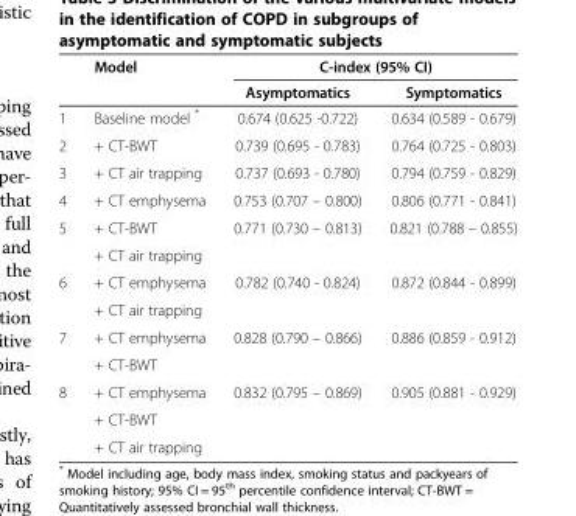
<table><thead><tr><td rowspan="2"></td><td rowspan="2">Model</td><td colspan="2">C-index (95% CI)</td></tr><tr><td>Asymptomatics</td><td>Symptomatics</td></tr></thead><tbody><tr><td>1</td><td>Baseline model *</td><td>0.674 (0.625 -0.722)</td><td>0.634 (0.589 - 0.679)</td></tr><tr><td>2</td><td>+ CT-BWT</td><td>0.739 (0.695 - 0.783)</td><td>0.764 (0.725 - 0.803)</td></tr><tr><td>3</td><td>+ CT air trapping</td><td>0.737 (0.693 - 0.780)</td><td>0.794 (0.759 - 0.829)</td></tr><tr><td>4</td><td>+ CT emphysema</td><td>0.753 (0.707 – 0.800)</td><td>0.806 (0.771 - 0.841)</td></tr><tr><td rowspan="2">5</td><td>+ CT-BWT</td><td rowspan="2">0.771 (0.730 – 0.813)</td><td rowspan="2">0.821 (0.788 – 0.855)</td></tr><tr><td>+ CT air trapping</td></tr><tr><td rowspan="2">6</td><td>+ CT emphysema</td><td rowspan="2">0.782 (0.740 - 0.824)</td><td rowspan="2">0.872 (0.844 - 0.899)</td></tr><tr><td>+ CT air trapping</td></tr><tr><td rowspan="2">7</td><td>+ CT emphysema</td><td rowspan="2">0.828 (0.790 – 0.866)</td><td rowspan="2">0.886 (0.859 - 0.912)</td></tr><tr><td>+ CT-BWT</td></tr><tr><td rowspan="3">8</td><td>+ CT emphysema</td><td>0.832 (0.795 – 0.869)</td><td>0.905 (0.881 - 0.929)</td></tr><tr><td>+ CT-BWT</td><td></td><td></td></tr><tr><td>+ CT air trapping</td><td></td><td></td></tr></tbody></table>